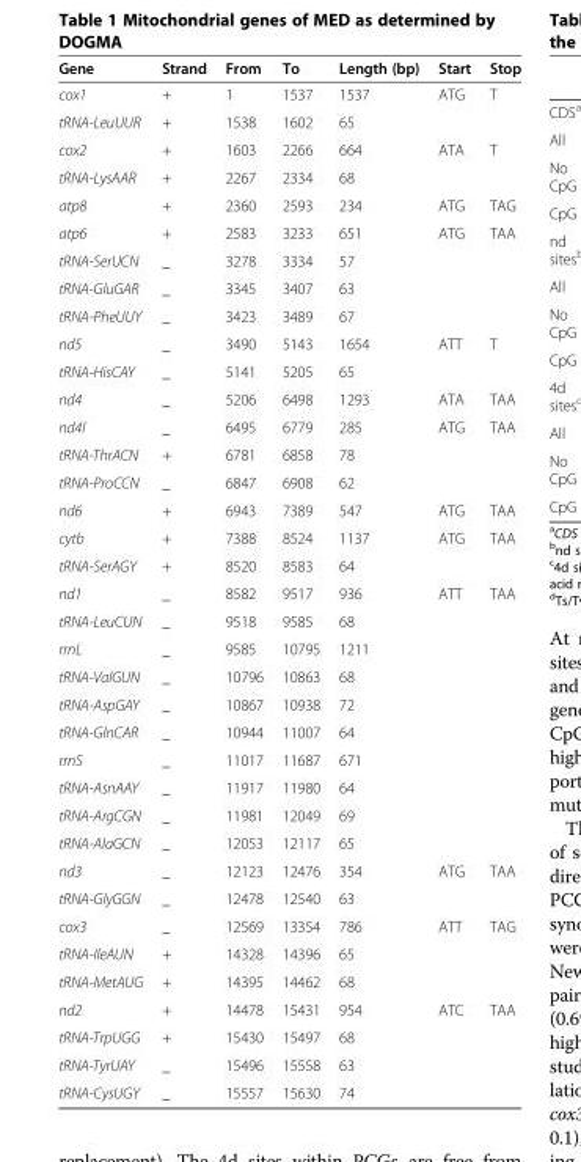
<table><thead><tr><td>Gene</td><td>Strand</td><td>From</td><td>To</td><td>Length (bp)</td><td>Start</td><td>Stop</td></tr></thead><tbody><tr><td>cox1</td><td>+</td><td>1</td><td>1537</td><td>1537</td><td>ATG</td><td>T</td></tr><tr><td>tRNA-LeuUUR</td><td>+</td><td>1538</td><td>1602</td><td>65</td><td></td><td></td></tr><tr><td>cox2</td><td>+</td><td>1603</td><td>2266</td><td>664</td><td>ATA</td><td>T</td></tr><tr><td>tRNA-LysAAR</td><td>+</td><td>2267</td><td>2334</td><td>68</td><td></td><td></td></tr><tr><td>atp8</td><td>+</td><td>2360</td><td>2593</td><td>234</td><td>ATG</td><td>TAG</td></tr><tr><td>atp6</td><td>+</td><td>2583</td><td>3233</td><td>651</td><td>ATG</td><td>TAA</td></tr><tr><td>tRNA-SerUCN</td><td>_</td><td>3278</td><td>3334</td><td>57</td><td></td><td></td></tr><tr><td>tRNA-GluGAR</td><td>_</td><td>3345</td><td>3407</td><td>63</td><td></td><td></td></tr><tr><td>tRNA-PheUUY</td><td>_</td><td>3423</td><td>3489</td><td>67</td><td></td><td></td></tr><tr><td>nd5</td><td>_</td><td>3490</td><td>5143</td><td>1654</td><td>ATT</td><td>T</td></tr><tr><td>tRNA-HisCAY</td><td>_</td><td>5141</td><td>5205</td><td>65</td><td></td><td></td></tr><tr><td>nd4</td><td>_</td><td>5206</td><td>6498</td><td>1293</td><td>ATA</td><td>TAA</td></tr><tr><td>nd4l</td><td>_</td><td>6495</td><td>6779</td><td>285</td><td>ATG</td><td>TAA</td></tr><tr><td>tRNA-ThrACN</td><td>+</td><td>6781</td><td>6858</td><td>78</td><td></td><td></td></tr><tr><td>tRNA-ProCCN</td><td>_</td><td>6847</td><td>6908</td><td>62</td><td></td><td></td></tr><tr><td>nd6</td><td>+</td><td>6943</td><td>7389</td><td>547</td><td>ATG</td><td>TAA</td></tr><tr><td>cytb</td><td>+</td><td>7388</td><td>8524</td><td>1137</td><td>ATG</td><td>TAA</td></tr><tr><td>tRNA-SerAGY</td><td>+</td><td>8520</td><td>8583</td><td>64</td><td></td><td></td></tr><tr><td>nd1</td><td>_</td><td>8582</td><td>9517</td><td>936</td><td>ATT</td><td>TAA</td></tr><tr><td>tRNA-LeuCUN</td><td>_</td><td>9518</td><td>9585</td><td>68</td><td></td><td></td></tr><tr><td>rrnL</td><td>_</td><td>9585</td><td>10795</td><td>1211</td><td></td><td></td></tr><tr><td>tRNA-ValGUN</td><td>_</td><td>10796</td><td>10863</td><td>68</td><td></td><td></td></tr><tr><td>tRNA-AspGAY</td><td>_</td><td>10867</td><td>10938</td><td>72</td><td></td><td></td></tr><tr><td>tRNA-GlnCAR</td><td>_</td><td>10944</td><td>11007</td><td>64</td><td></td><td></td></tr><tr><td>rrnS</td><td>_</td><td>11017</td><td>11687</td><td>671</td><td></td><td></td></tr><tr><td>tRNA-AsnAAY</td><td>_</td><td>11917</td><td>11980</td><td>64</td><td></td><td></td></tr><tr><td>tRNA-ArgCGN</td><td>_</td><td>11981</td><td>12049</td><td>69</td><td></td><td></td></tr><tr><td>tRNA-AlaGCN</td><td>_</td><td>12053</td><td>12117</td><td>65</td><td></td><td></td></tr><tr><td>nd3</td><td>_</td><td>12123</td><td>12476</td><td>354</td><td>ATG</td><td>TAA</td></tr><tr><td>tRNA-GlyGGN</td><td>_</td><td>12478</td><td>12540</td><td>63</td><td></td><td></td></tr><tr><td>cox3</td><td>_</td><td>12569</td><td>13354</td><td>786</td><td>ATT</td><td>TAG</td></tr><tr><td>tRNA-IleAUN</td><td>+</td><td>14328</td><td>14396</td><td>65</td><td></td><td></td></tr><tr><td>tRNA-MetAUG</td><td>+</td><td>14395</td><td>14462</td><td>68</td><td></td><td></td></tr><tr><td>nd2</td><td>+</td><td>14478</td><td>15431</td><td>954</td><td>ATC</td><td>TAA</td></tr><tr><td>tRNA-TrpUGG</td><td>+</td><td>15430</td><td>15497</td><td>68</td><td></td><td></td></tr><tr><td>tRNA-TyrUAY</td><td>_</td><td>15496</td><td>15558</td><td>63</td><td></td><td></td></tr><tr><td>tRNA-CysUGY</td><td>_</td><td>15557</td><td>15630</td><td>74</td><td></td><td></td></tr></tbody></table>